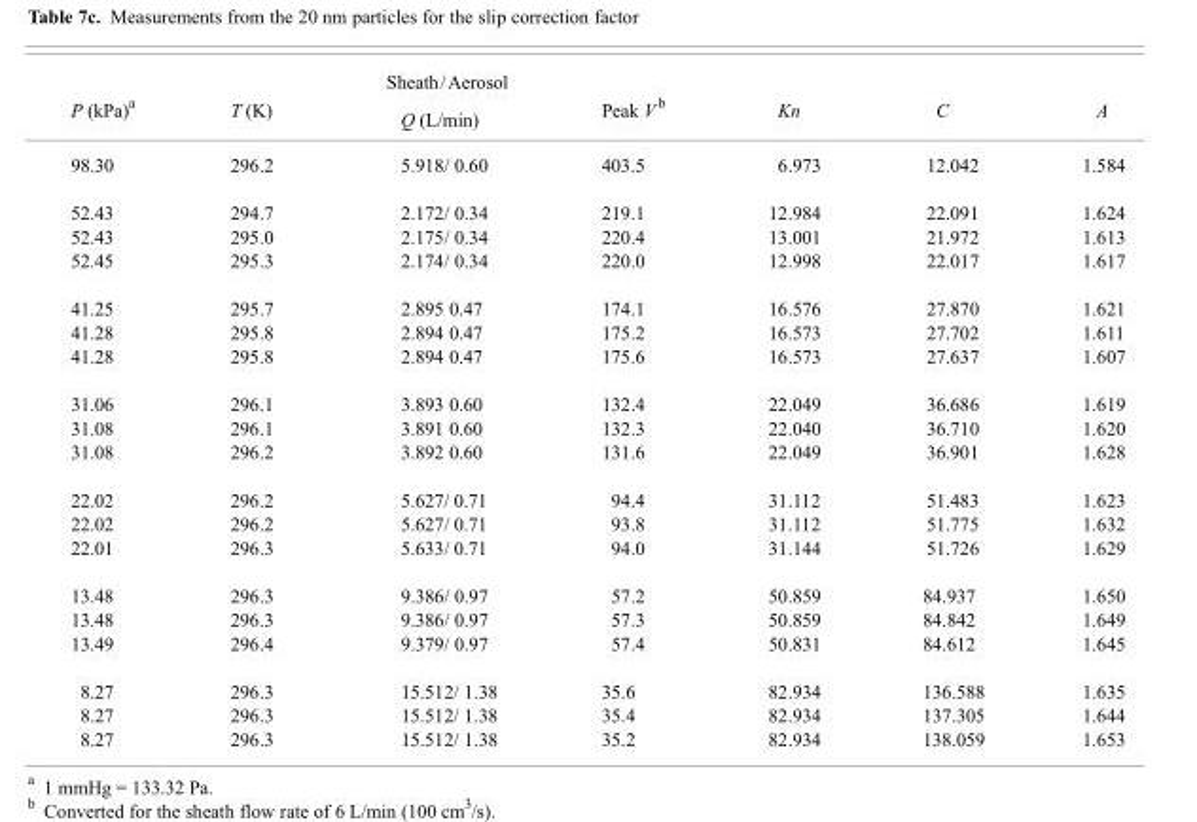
<table><thead><tr><td rowspan="2">P (kPa)<sup>a</sup></td><td rowspan="2">T (K)</td><td rowspan="2">Sheath/Aerosol Q (L/min)</td><td rowspan="2">Peak V <sup>b</sup></td><td rowspan="2">Kn</td><td rowspan="2">C</td><td rowspan="2">A</td></tr><tr></tr></thead><tbody><tr><td>98.30</td><td>296.2</td><td>5.918/ 0.60</td><td>403.5</td><td>6.973</td><td>12.042</td><td>1.584</td></tr><tr><td>52.43</td><td>294.7</td><td>2.172/ 0.34</td><td>219.1</td><td>12.984</td><td>22.091</td><td>1.624</td></tr><tr><td>52.43</td><td>295.0</td><td>2.175/ 0.34</td><td>220.4</td><td>13.001</td><td>21.972</td><td>1.613</td></tr><tr><td>52.45</td><td>295.3</td><td>2.174/ 0.34</td><td>220.0</td><td>12.998</td><td>22.017</td><td>1.617</td></tr><tr><td>41.25</td><td>295.7</td><td>2.895 0.47</td><td>174.1</td><td>16.576</td><td>27.870</td><td>1.621</td></tr><tr><td>41.28</td><td>295.8</td><td>2.894 0.47</td><td>175.2</td><td>16.573</td><td>27.702</td><td>1.611</td></tr><tr><td>41.28</td><td>295.8</td><td>2.894 0.47</td><td>175.6</td><td>16.573</td><td>27.637</td><td>1.607</td></tr><tr><td>31.06</td><td>296.1</td><td>3.893 0.60</td><td>132.4</td><td>22.049</td><td>36.686</td><td>1.619</td></tr><tr><td>31.08</td><td>296.1</td><td>3.891 0.60</td><td>132.3</td><td>22.040</td><td>36.710</td><td>1.620</td></tr><tr><td>31.08</td><td>296.2</td><td>3.892 0.60</td><td>131.6</td><td>22.049</td><td>36.901</td><td>1.628</td></tr><tr><td>22.02</td><td>296.2</td><td>5.627/ 0.71</td><td>94.4</td><td>31.112</td><td>51.483</td><td>1.623</td></tr><tr><td>22.02</td><td>296.2</td><td>5.627/ 0.71</td><td>93.8</td><td>31.112</td><td>51.775</td><td>1.632</td></tr><tr><td>22.01</td><td>296.3</td><td>5.633/ 0.71</td><td>94.0</td><td>31.144</td><td>51.726</td><td>1.629</td></tr><tr><td>13.48</td><td>296.3</td><td>9.386/ 0.97</td><td>57.2</td><td>50.859</td><td>84.937</td><td>1.650</td></tr><tr><td>13.48</td><td>296.3</td><td>9.386/ 0.97</td><td>57.3</td><td>50.859</td><td>84.842</td><td>1.649</td></tr><tr><td>13.49</td><td>296.4</td><td>9.379/ 0.97</td><td>57.4</td><td>50.831</td><td>84.612</td><td>1.645</td></tr><tr><td>8.27</td><td>296.3</td><td>15.512/ 1.38</td><td>35.6</td><td>82.934</td><td>136.588</td><td>1.635</td></tr><tr><td>8.27</td><td>296.3</td><td>15.512/ 1.38</td><td>35.4</td><td>82.934</td><td>137.305</td><td>1.644</td></tr><tr><td>8.27</td><td>296.3</td><td>15.512/ 1.38</td><td>35.2</td><td>82.934</td><td>138.059</td><td>1.653</td></tr></tbody></table>